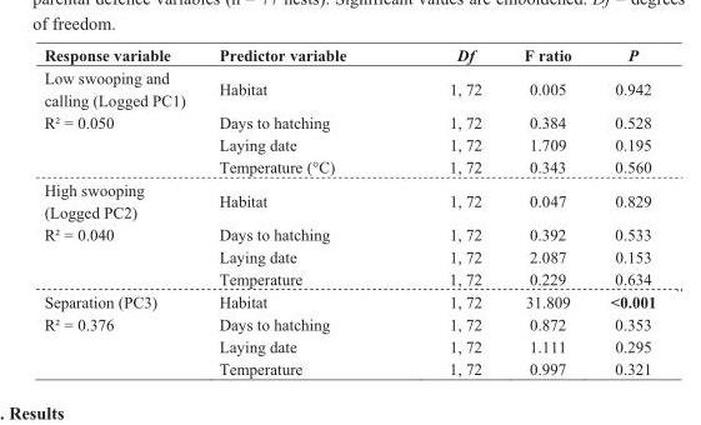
<table><thead><tr><td>Response variable</td><td>Predictor variable</td><td>Df</td><td>F ratio</td><td>P</td></tr></thead><tbody><tr><td>Low swooping and calling (Logged PC1)</td><td>Habitat</td><td>1, 72</td><td>0.005</td><td>0.942</td></tr><tr><td rowspan="3">R² = 0.050</td><td>Days to hatching</td><td>1, 72</td><td>0.384</td><td>0.528</td></tr><tr><td>Laying date</td><td>1, 72</td><td>1.709</td><td>0.195</td></tr><tr><td>Temperature (°C)</td><td>1, 72</td><td>0.343</td><td>0.560</td></tr><tr><td>High swooping (Logged PC2)</td><td>Habitat</td><td>1, 72</td><td>0.047</td><td>0.829</td></tr><tr><td rowspan="3">R² = 0.040</td><td>Days to hatching</td><td>1, 72</td><td>0.392</td><td>0.533</td></tr><tr><td>Laying date</td><td>1, 72</td><td>2.087</td><td>0.153</td></tr><tr><td>Temperature</td><td>1, 72</td><td>0.229</td><td>0.634</td></tr><tr><td>Separation (PC3)</td><td>Habitat</td><td>1, 72</td><td>31.809</td><td>&lt;0.001</td></tr><tr><td rowspan="3">R² = 0.376</td><td>Days to hatching</td><td>1, 72</td><td>0.872</td><td>0.353</td></tr><tr><td>Laying date</td><td>1, 72</td><td>1.111</td><td>0.295</td></tr><tr><td>Temperature</td><td>1, 72</td><td>0.997</td><td>0.321</td></tr></tbody></table>